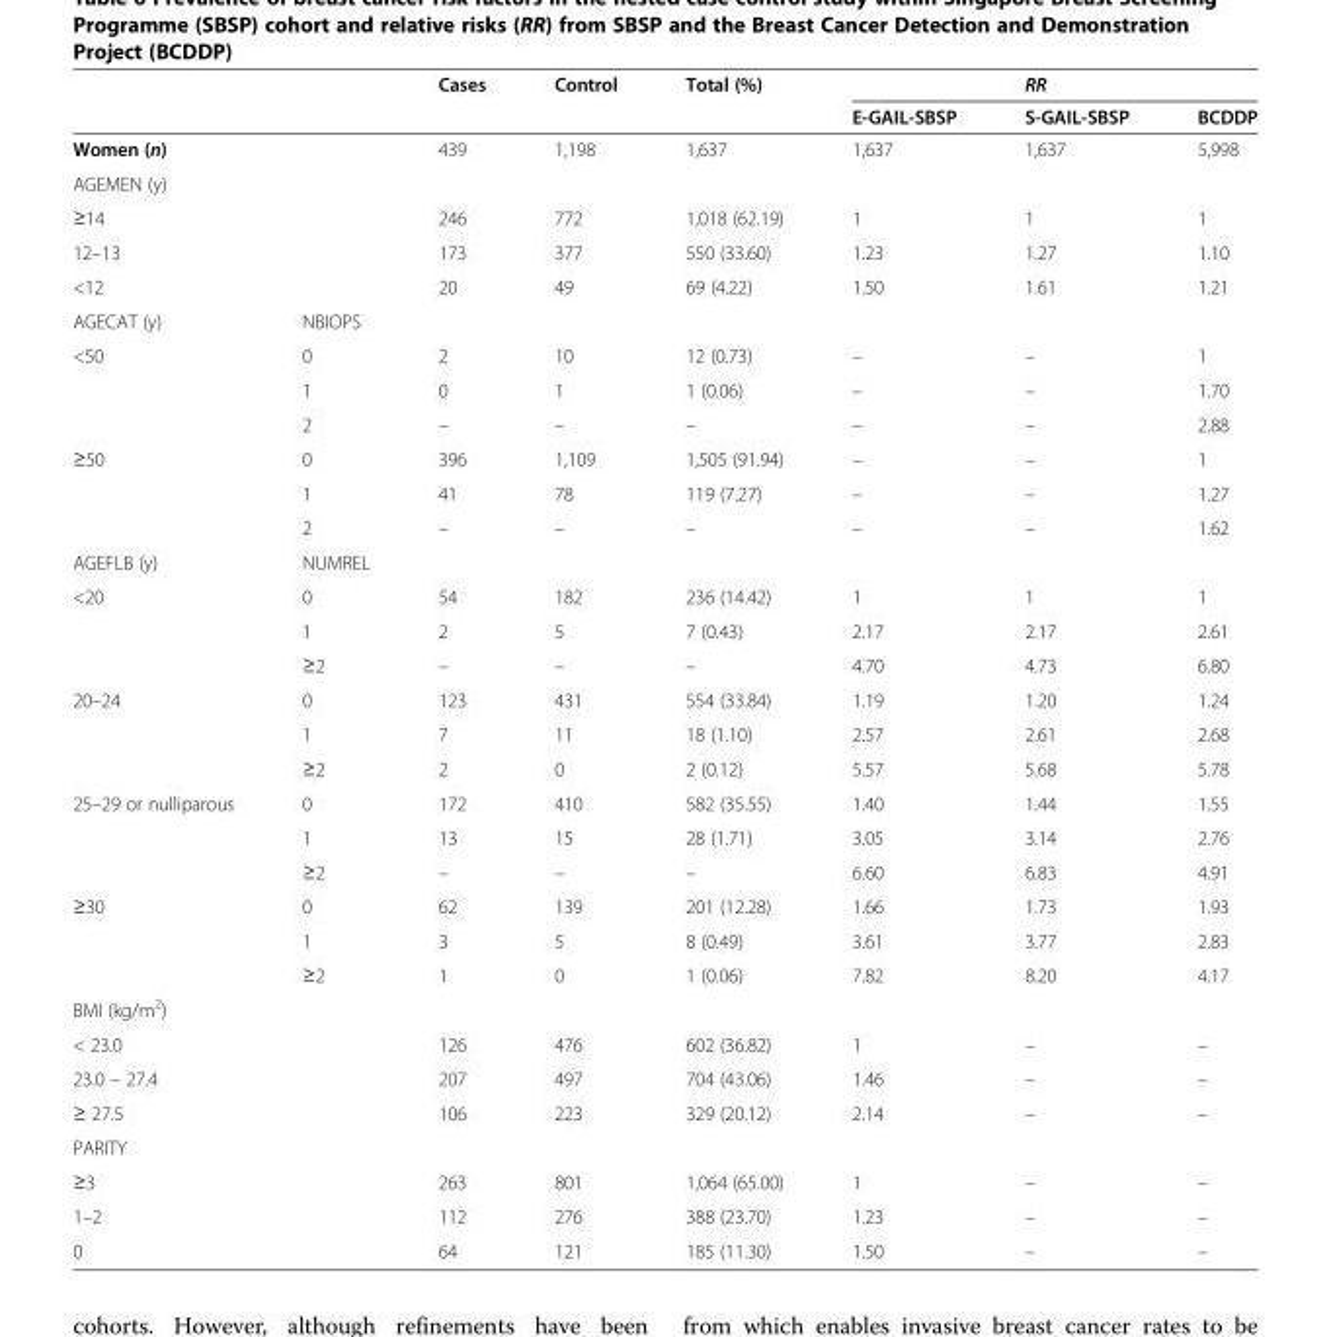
<table><thead><tr><td rowspan="2"></td><td rowspan="2"></td><td rowspan="2">Cases</td><td rowspan="2">Control</td><td rowspan="2">Total (%)</td><td rowspan="2">E-GAIL-SBSP</td><td rowspan="2">RR S-GAIL-SBSP</td><td rowspan="2">BCDDP</td></tr><tr></tr></thead><tbody><tr><td>Women (n)</td><td></td><td>439</td><td>1,198</td><td>1,637</td><td>1,637</td><td>1,637</td><td>5,998</td></tr><tr><td colspan="8">AGEMEN (y)</td></tr><tr><td>≥14</td><td></td><td>246</td><td>772</td><td>1,018 (62.19)</td><td>1</td><td>1</td><td>1</td></tr><tr><td>12–13</td><td></td><td>173</td><td>377</td><td>550 (33.60)</td><td>1.23</td><td>1.27</td><td>1.10</td></tr><tr><td>&lt;12</td><td></td><td>20</td><td>49</td><td>69 (4.22)</td><td>1.50</td><td>1.61</td><td>1.21</td></tr><tr><td>AGECAT (y)</td><td>NBIOPS</td><td></td><td></td><td></td><td></td><td></td><td></td></tr><tr><td rowspan="3">&lt;50</td><td>0</td><td>2</td><td>10</td><td>12 (0.73)</td><td>–</td><td>–</td><td>1</td></tr><tr><td>1</td><td>0</td><td>1</td><td>1 (0.06)</td><td>–</td><td>–</td><td>1.70</td></tr><tr><td>2</td><td>–</td><td>–</td><td>–</td><td>–</td><td>–</td><td>2.88</td></tr><tr><td rowspan="3">≥50</td><td>0</td><td>396</td><td>1,109</td><td>1,505 (91.94)</td><td>–</td><td>–</td><td>1</td></tr><tr><td>1</td><td>41</td><td>78</td><td>119 (7.27)</td><td>–</td><td>–</td><td>1.27</td></tr><tr><td>2</td><td>–</td><td>–</td><td>–</td><td>–</td><td>–</td><td>1.62</td></tr><tr><td>AGEFLB (y)</td><td>NUMREL</td><td></td><td></td><td></td><td></td><td></td><td></td></tr><tr><td rowspan="3">&lt;20</td><td>0</td><td>54</td><td>182</td><td>236 (14.42)</td><td>1</td><td>1</td><td>1</td></tr><tr><td>1</td><td>2</td><td>5</td><td>7 (0.43)</td><td>2.17</td><td>2.17</td><td>2.61</td></tr><tr><td>≥2</td><td>–</td><td>–</td><td>–</td><td>4.70</td><td>4.73</td><td>6.80</td></tr><tr><td rowspan="3">20–24</td><td>0</td><td>123</td><td>431</td><td>554 (33.84)</td><td>1.19</td><td>1.20</td><td>1.24</td></tr><tr><td>1</td><td>7</td><td>11</td><td>18 (1.10)</td><td>2.57</td><td>2.61</td><td>2.68</td></tr><tr><td>≥2</td><td>2</td><td>0</td><td>2 (0.12)</td><td>5.57</td><td>5.68</td><td>5.78</td></tr><tr><td rowspan="3">25–29 or nulliparous</td><td>0</td><td>172</td><td>410</td><td>582 (35.55)</td><td>1.40</td><td>1.44</td><td>1.55</td></tr><tr><td>1</td><td>13</td><td>15</td><td>28 (1.71)</td><td>3.05</td><td>3.14</td><td>2.76</td></tr><tr><td>≥2</td><td>–</td><td>–</td><td>–</td><td>6.60</td><td>6.83</td><td>4.91</td></tr><tr><td rowspan="3">≥30</td><td>0</td><td>62</td><td>139</td><td>201 (12.28)</td><td>1.66</td><td>1.73</td><td>1.93</td></tr><tr><td>1</td><td>3</td><td>5</td><td>8 (0.49)</td><td>3.61</td><td>3.77</td><td>2.83</td></tr><tr><td>≥2</td><td>1</td><td>0</td><td>1 (0.06)</td><td>7.82</td><td>8.20</td><td>4.17</td></tr><tr><td colspan="8">BMI (kg/m<sup>2</sup>)</td></tr><tr><td>&lt; 23.0</td><td></td><td>126</td><td>476</td><td>602 (36.82)</td><td>1</td><td>–</td><td>–</td></tr><tr><td>23.0 – 27.4</td><td></td><td>207</td><td>497</td><td>704 (43.06)</td><td>1.46</td><td>–</td><td>–</td></tr><tr><td>≥ 27.5</td><td></td><td>106</td><td>223</td><td>329 (20.12)</td><td>2.14</td><td>–</td><td>–</td></tr><tr><td colspan="8">PARITY</td></tr><tr><td>≥3</td><td></td><td>263</td><td>801</td><td>1,064 (65.00)</td><td>1</td><td>–</td><td>–</td></tr><tr><td>1–2</td><td></td><td>112</td><td>276</td><td>388 (23.70)</td><td>1.23</td><td>–</td><td>–</td></tr><tr><td>0</td><td></td><td>64</td><td>121</td><td>185 (11.30)</td><td>1.50</td><td>–</td><td>–</td></tr></tbody></table>